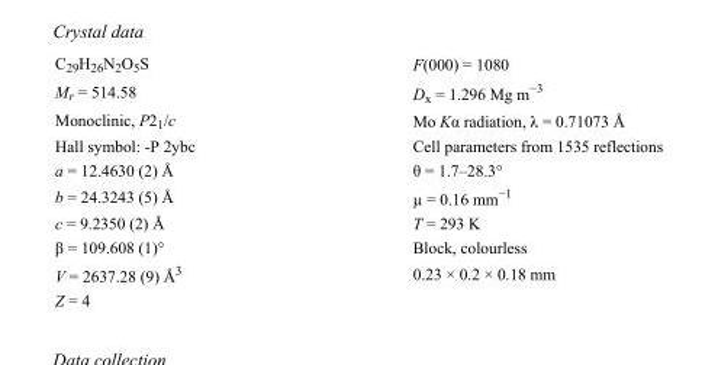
<table><tbody><tr><td>C<sub>29</sub>H<sub>26</sub>N<sub>2</sub>O<sub>5</sub>S</td><td>F(000) = 1080</td></tr><tr><td>M<sub>r</sub> = 514.58</td><td>D<sub>x</sub> = 1.296 Mg m<sup>−3</sup></td></tr><tr><td>Monoclinic, P2<sub>1</sub>/c</td><td>Mo Kα radiation, λ = 0.71073 Å</td></tr><tr><td>Hall symbol: -P 2ybc</td><td>Cell parameters from 1535 reflections</td></tr><tr><td>a = 12.4630 (2) Å</td><td>θ = 1.7–28.3°</td></tr><tr><td>b = 24.3243 (5) Å</td><td>µ = 0.16 mm<sup>−1</sup></td></tr><tr><td>c = 9.2350 (2) Å</td><td>T = 293 K</td></tr><tr><td>β = 109.608 (1)°</td><td>Block, colourless</td></tr><tr><td>V = 2637.28 (9) Å<sup>3</sup></td><td>0.23 × 0.2 × 0.18 mm</td></tr><tr><td>Z = 4</td><td></td></tr></tbody></table>